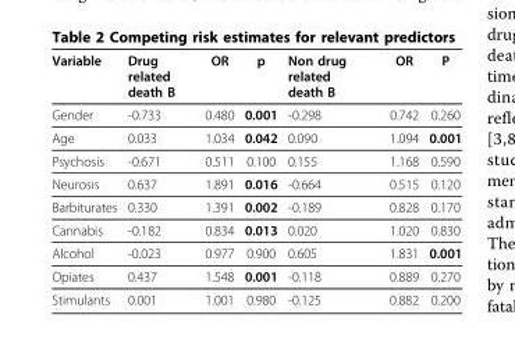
<table><thead><tr><td>Variable</td><td>Drug related death B</td><td>OR</td><td>p</td><td>Non drug related death B</td><td>OR</td><td>P</td></tr></thead><tbody><tr><td>Gender</td><td>-0.733</td><td>0.480</td><td>0.001</td><td>-0.298</td><td>0.742</td><td>0.260</td></tr><tr><td>Age</td><td>0.033</td><td>1.034</td><td>0.042</td><td>0.090</td><td>1.094</td><td>0.001</td></tr><tr><td>Psychosis</td><td>-0.671</td><td>0.511</td><td>0.100</td><td>0.155</td><td>1.168</td><td>0.590</td></tr><tr><td>Neurosis</td><td>0.637</td><td>1.891</td><td>0.016</td><td>-0.664</td><td>0.515</td><td>0.120</td></tr><tr><td>Barbiturates</td><td>0.330</td><td>1.391</td><td>0.002</td><td>-0.189</td><td>0.828</td><td>0.170</td></tr><tr><td>Cannabis</td><td>-0.182</td><td>0.834</td><td>0.013</td><td>0.020</td><td>1.020</td><td>0.830</td></tr><tr><td>Alcohol</td><td>-0.023</td><td>0.977</td><td>0.900</td><td>0.605</td><td>1.831</td><td>0.001</td></tr><tr><td>Opiates</td><td>0.437</td><td>1.548</td><td>0.001</td><td>-0.118</td><td>0.889</td><td>0.270</td></tr><tr><td>Stimulants</td><td>0.001</td><td>1.001</td><td>0.980</td><td>-0.125</td><td>0.882</td><td>0.200</td></tr></tbody></table>